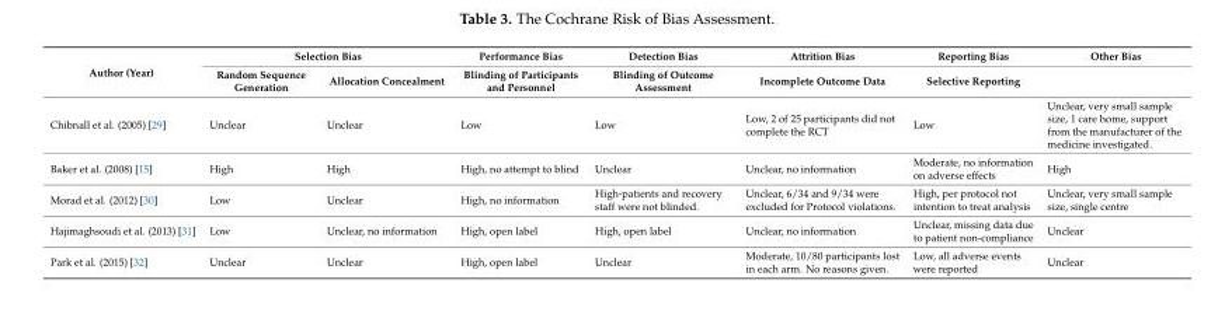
<table><thead><tr><td rowspan="2">Author (Year)</td><td colspan="2">Selection Bias</td><td rowspan="2">Performance Bias Blinding of Participants and Personnel</td><td rowspan="2">Detection Bias Blinding of Outcome Assessment</td><td rowspan="2">Attrition Bias Incomplete Outcome Data</td><td rowspan="2">Reporting Bias Selective Reporting</td><td rowspan="2">Other Bias</td></tr><tr><td>Random Sequence Generation</td><td>Allocation Concealment</td></tr></thead><tbody><tr><td>Chibnall et al. (2005) [29]</td><td>Unclear</td><td>Unclear</td><td>Low</td><td>Low</td><td>Low, 2 of 25 participants did not complete the RCT</td><td>Low</td><td>Unclear, very small sample size, 1 care home, support from the manufacturer of the medicine investigated.</td></tr><tr><td>Baker et al. (2008) [15]</td><td>High</td><td>High</td><td>High, no attempt to blind</td><td>Unclear</td><td>Unclear, no information</td><td>Moderate, no information on adverse effects</td><td>High</td></tr><tr><td>Morad et al. (2012) [30]</td><td>Low</td><td>Unclear</td><td>High, no information</td><td>High-patients and recovery staff were not blinded.</td><td>Unclear, 6/34 and 9/34 were excluded for Protocol violations.</td><td>High, per protocol not intention to treat analysis</td><td>Unclear, very small sample size, single centre</td></tr><tr><td>Hajimaghsoudi et al. (2013) [31]</td><td>Low</td><td>Unclear, no information</td><td>High, open label</td><td>High, open label</td><td>Unclear, no information</td><td>Unclear, missing data due to patient non-compliance</td><td>Unclear</td></tr><tr><td>Park et al. (2015) [32]</td><td>Unclear</td><td>Unclear</td><td>High, open label</td><td>Unclear</td><td>Moderate, 10/80 participants lost in each arm. No reasons given.</td><td>Low, all adverse events were reported</td><td>Unclear</td></tr></tbody></table>